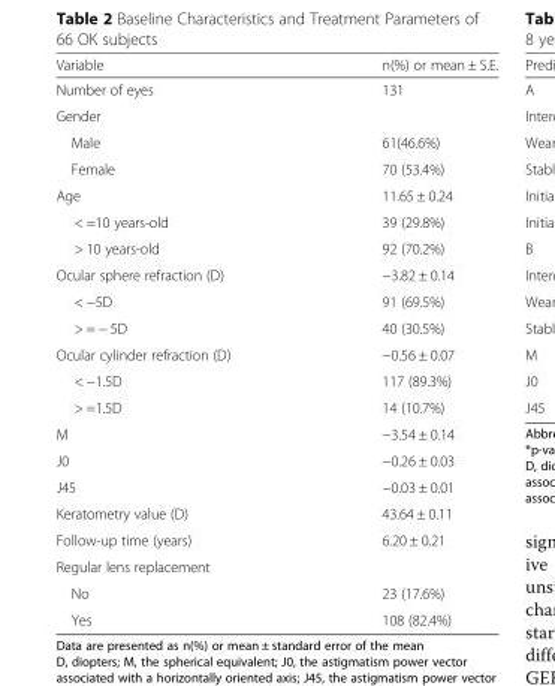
<table><thead><tr><td>Variable</td><td>n(%) or mean ± S.E.</td></tr></thead><tbody><tr><td>Number of eyes</td><td>131</td></tr><tr><td colspan="2">Gender</td></tr><tr><td>Male</td><td>61(46.6%)</td></tr><tr><td>Female</td><td>70 (53.4%)</td></tr><tr><td>Age</td><td>11.65 ± 0.24</td></tr><tr><td>&lt; =10 years-old</td><td>39 (29.8%)</td></tr><tr><td>&gt; 10 years-old</td><td>92 (70.2%)</td></tr><tr><td>Ocular sphere refraction (D)</td><td>−3.82 ± 0.14</td></tr><tr><td>&lt; −5D</td><td>91 (69.5%)</td></tr><tr><td>&gt; = − 5D</td><td>40 (30.5%)</td></tr><tr><td>Ocular cylinder refraction (D)</td><td>−0.56 ± 0.07</td></tr><tr><td>&lt; −1.5D</td><td>117 (89.3%)</td></tr><tr><td>&gt; =1.5D</td><td>14 (10.7%)</td></tr><tr><td>M</td><td>−3.54 ± 0.14</td></tr><tr><td>J0</td><td>−0.26 ± 0.03</td></tr><tr><td>J45</td><td>−0.03 ± 0.01</td></tr><tr><td>Keratometry value (D)</td><td>43.64 ± 0.11</td></tr><tr><td>Follow-up time (years)</td><td>6.20 ± 0.21</td></tr><tr><td colspan="2">Regular lens replacement</td></tr><tr><td>No</td><td>23 (17.6%)</td></tr><tr><td>Yes</td><td>108 (82.4%)</td></tr></tbody></table>